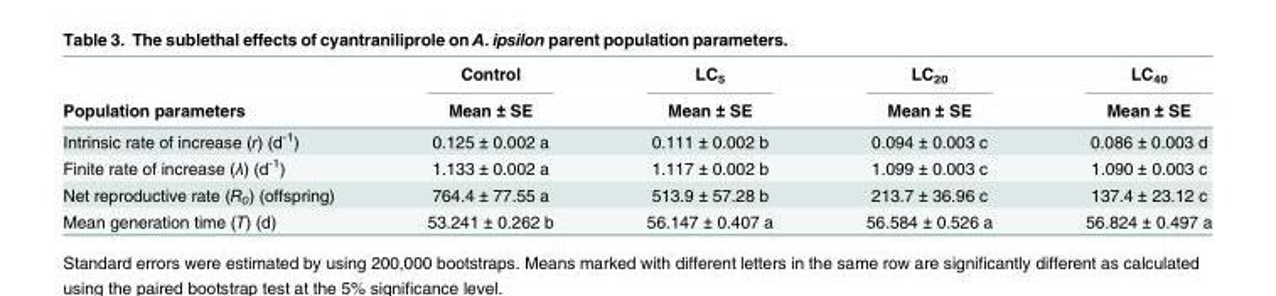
<table><thead><tr><td rowspan="2">Population parameters</td><td rowspan="2">Control Mean ± SE</td><td rowspan="2">LC<sub>5</sub> Mean ± SE</td><td rowspan="2">LC<sub>20</sub> Mean ± SE</td><td rowspan="2">LC<sub>40</sub> Mean ± SE</td></tr><tr></tr></thead><tbody><tr><td>Intrinsic rate of increase (r) (d<sup>-1</sup>)</td><td>0.125 ± 0.002 a</td><td>0.111 ± 0.002 b</td><td>0.094 ± 0.003 c</td><td>0.086 ± 0.003 d</td></tr><tr><td>Finite rate of increase (λ) (d<sup>-1</sup>)</td><td>1.133 ± 0.002 a</td><td>1.117 ± 0.002 b</td><td>1.099 ± 0.003 c</td><td>1.090 ± 0.003 c</td></tr><tr><td>Net reproductive rate (R<sub>0</sub>) (offspring)</td><td>764.4 ± 77.55 a</td><td>513.9 ± 57.28 b</td><td>213.7 ± 36.96 c</td><td>137.4 ± 23.12 c</td></tr><tr><td>Mean generation time (T) (d)</td><td>53.241 ± 0.262 b</td><td>56.147 ± 0.407 a</td><td>56.584 ± 0.526 a</td><td>56.824 ± 0.497 a</td></tr></tbody></table>